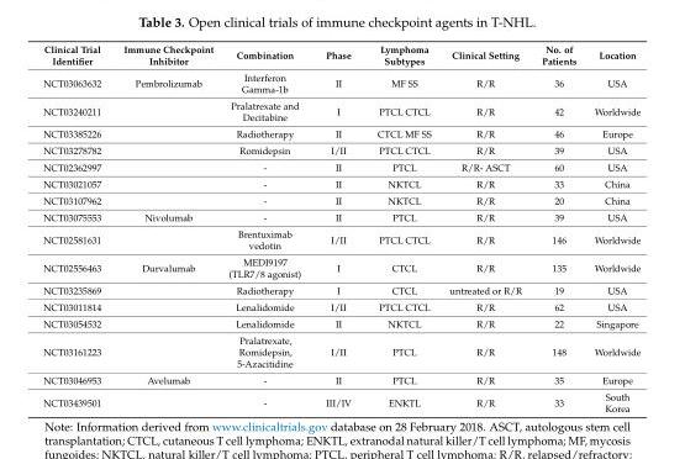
<table><thead><tr><td>Clinical Trial Identifier</td><td>Immune Checkpoint Inhibitor</td><td>Combination</td><td>Phase</td><td>Lymphoma Subtypes</td><td>Clinical Setting</td><td>No. of Patients</td><td>Location</td></tr></thead><tbody><tr><td>NCT03063632</td><td>Pembrolizumab</td><td>Interferon Gamma-1b</td><td>II</td><td>MF SS</td><td>R/R</td><td>36</td><td>USA</td></tr><tr><td>NCT03240211</td><td></td><td>Pralatrexate and Decitabine</td><td>I</td><td>PTCL CTCL</td><td>R/R</td><td>42</td><td>Worldwide</td></tr><tr><td>NCT03385226</td><td></td><td>Radiotherapy</td><td>II</td><td>CTCL MF SS</td><td>R/R</td><td>46</td><td>Europe</td></tr><tr><td>NCT03278782</td><td></td><td>Romidepsin</td><td>I/II</td><td>PTCL CTCL</td><td>R/R</td><td>39</td><td>USA</td></tr><tr><td>NCT02362997</td><td></td><td>-</td><td>II</td><td>PTCL</td><td>R/R- ASCT</td><td>60</td><td>USA</td></tr><tr><td>NCT03021057</td><td></td><td>-</td><td>II</td><td>NKTCL</td><td>R/R</td><td>33</td><td>China</td></tr><tr><td>NCT03107962</td><td></td><td>-</td><td>II</td><td>NKTCL</td><td>R/R</td><td>20</td><td>China</td></tr><tr><td>NCT03075553</td><td>Nivolumab</td><td>-</td><td>II</td><td>PTCL</td><td>R/R</td><td>39</td><td>USA</td></tr><tr><td>NCT02581631</td><td></td><td>Brentuximab vedotin</td><td>I/II</td><td>PTCL CTCL</td><td>R/R</td><td>146</td><td>Worldwide</td></tr><tr><td>NCT02556463</td><td>Durvalumab</td><td>MEDI9197 (TLR7/8 agonist)</td><td>I</td><td>CTCL</td><td>R/R</td><td>135</td><td>Worldwide</td></tr><tr><td>NCT03235869</td><td></td><td>Radiotherapy</td><td>I</td><td>CTCL</td><td>untreated or R/R</td><td>19</td><td>USA</td></tr><tr><td>NCT03011814</td><td></td><td>Lenalidomide</td><td>I/II</td><td>PTCL CTCL</td><td>R/R</td><td>62</td><td>USA</td></tr><tr><td>NCT03054532</td><td></td><td>Lenalidomide</td><td>II</td><td>NKTCL</td><td>R/R</td><td>22</td><td>Singapore</td></tr><tr><td>NCT03161223</td><td></td><td>Pralatrexate, Romidepsin, 5-Azacitidine</td><td>I/II</td><td>PTCL</td><td>R/R</td><td>148</td><td>Worldwide</td></tr><tr><td>NCT03046953</td><td>Avelumab</td><td>-</td><td>II</td><td>PTCL</td><td>R/R</td><td>35</td><td>Europe</td></tr><tr><td>NCT03439501</td><td></td><td>-</td><td>III/IV</td><td>ENKTL</td><td>R/R</td><td>33</td><td>South Korea</td></tr></tbody></table>